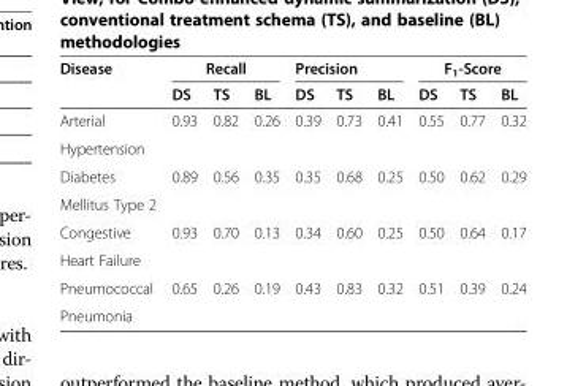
<table><thead><tr><td rowspan="2">Disease</td><td colspan="3">Recall</td><td colspan="3">Precision</td><td colspan="3">F<sub>1</sub>-Score</td></tr><tr><td>DS</td><td>TS</td><td>BL</td><td>DS</td><td>TS</td><td>BL</td><td>DS</td><td>TS</td><td>BL</td></tr></thead><tbody><tr><td>Arterial</td><td>0.93</td><td>0.82</td><td>0.26</td><td>0.39</td><td>0.73</td><td>0.41</td><td>0.55</td><td>0.77</td><td>0.32</td></tr><tr><td colspan="10">Hypertension</td></tr><tr><td>Diabetes</td><td>0.89</td><td>0.56</td><td>0.35</td><td>0.35</td><td>0.68</td><td>0.25</td><td>0.50</td><td>0.62</td><td>0.29</td></tr><tr><td colspan="10">Mellitus Type 2</td></tr><tr><td>Congestive</td><td>0.93</td><td>0.70</td><td>0.13</td><td>0.34</td><td>0.60</td><td>0.25</td><td>0.50</td><td>0.64</td><td>0.17</td></tr><tr><td colspan="10">Heart Failure</td></tr><tr><td>Pneumococcal</td><td>0.65</td><td>0.26</td><td>0.19</td><td>0.43</td><td>0.83</td><td>0.32</td><td>0.51</td><td>0.39</td><td>0.24</td></tr><tr><td>Pneumonia</td><td colspan="9"></td></tr></tbody></table>